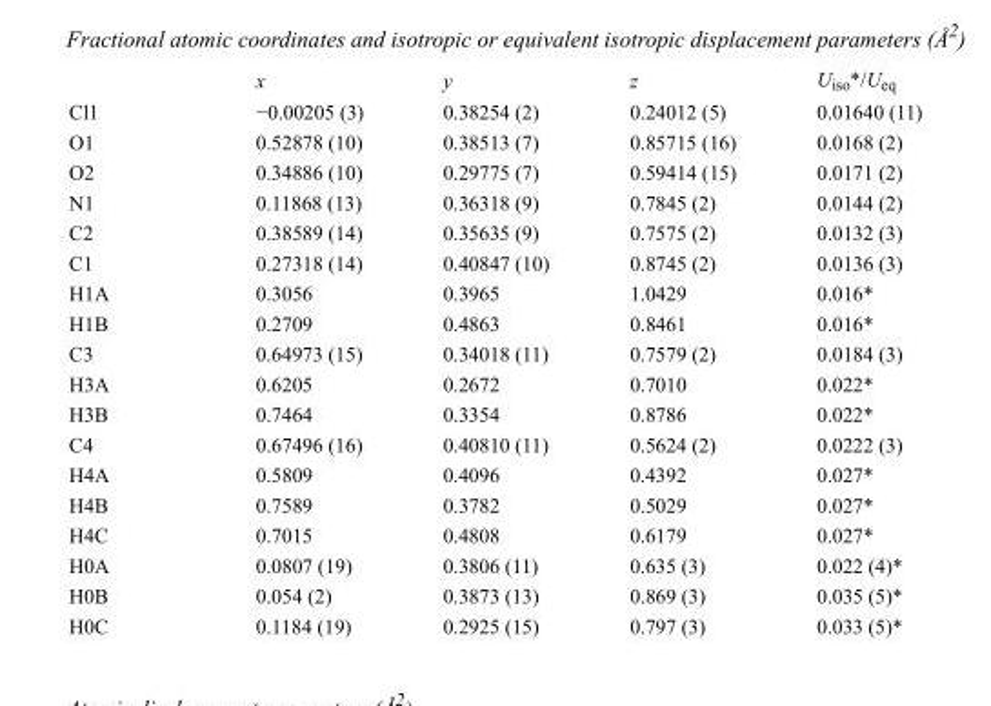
<table><thead><tr><td></td><td>x</td><td>y</td><td>z</td><td>U<sub>iso</sub>*/U<sub>eq</sub></td></tr></thead><tbody><tr><td>Cl1</td><td>−0.00205 (3)</td><td>0.38254 (2)</td><td>0.24012 (5)</td><td>0.01640 (11)</td></tr><tr><td>O1</td><td>0.52878 (10)</td><td>0.38513 (7)</td><td>0.85715 (16)</td><td>0.0168 (2)</td></tr><tr><td>O2</td><td>0.34886 (10)</td><td>0.29775 (7)</td><td>0.59414 (15)</td><td>0.0171 (2)</td></tr><tr><td>N1</td><td>0.11868 (13)</td><td>0.36318 (9)</td><td>0.7845 (2)</td><td>0.0144 (2)</td></tr><tr><td>C2</td><td>0.38589 (14)</td><td>0.35635 (9)</td><td>0.7575 (2)</td><td>0.0132 (3)</td></tr><tr><td>C1</td><td>0.27318 (14)</td><td>0.40847 (10)</td><td>0.8745 (2)</td><td>0.0136 (3)</td></tr><tr><td>H1A</td><td>0.3056</td><td>0.3965</td><td>1.0429</td><td>0.016*</td></tr><tr><td>H1B</td><td>0.2709</td><td>0.4863</td><td>0.8461</td><td>0.016*</td></tr><tr><td>C3</td><td>0.64973 (15)</td><td>0.34018 (11)</td><td>0.7579 (2)</td><td>0.0184 (3)</td></tr><tr><td>H3A</td><td>0.6205</td><td>0.2672</td><td>0.7010</td><td>0.022*</td></tr><tr><td>H3B</td><td>0.7464</td><td>0.3354</td><td>0.8786</td><td>0.022*</td></tr><tr><td>C4</td><td>0.67496 (16)</td><td>0.40810 (11)</td><td>0.5624 (2)</td><td>0.0222 (3)</td></tr><tr><td>H4A</td><td>0.5809</td><td>0.4096</td><td>0.4392</td><td>0.027*</td></tr><tr><td>H4B</td><td>0.7589</td><td>0.3782</td><td>0.5029</td><td>0.027*</td></tr><tr><td>H4C</td><td>0.7015</td><td>0.4808</td><td>0.6179</td><td>0.027*</td></tr><tr><td>H0A</td><td>0.0807 (19)</td><td>0.3806 (11)</td><td>0.635 (3)</td><td>0.022 (4)*</td></tr><tr><td>H0B</td><td>0.054 (2)</td><td>0.3873 (13)</td><td>0.869 (3)</td><td>0.035 (5)*</td></tr><tr><td>H0C</td><td>0.1184 (19)</td><td>0.2925 (15)</td><td>0.797 (3)</td><td>0.033 (5)*</td></tr></tbody></table>